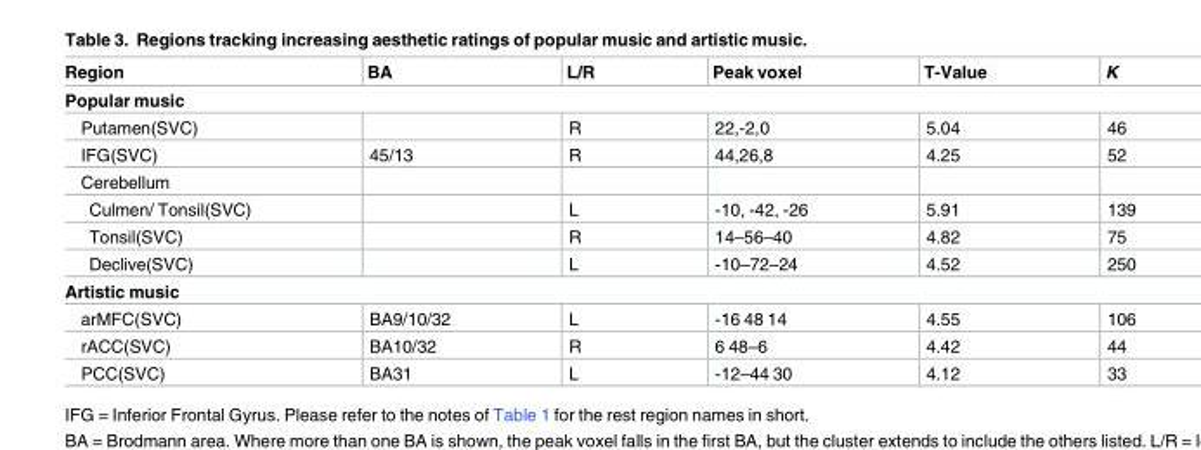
<table><thead><tr><td>Region</td><td>BA</td><td>L/R</td><td>Peak voxel</td><td>T-Value</td><td>K</td></tr></thead><tbody><tr><td colspan="6">Popular music</td></tr><tr><td>Putamen(SVC)</td><td></td><td>R</td><td>22,-2,0</td><td>5.04</td><td>46</td></tr><tr><td>IFG(SVC)</td><td>45/13</td><td>R</td><td>44,26,8</td><td>4.25</td><td>52</td></tr><tr><td colspan="6">Cerebellum</td></tr><tr><td>Culmen/ Tonsil(SVC)</td><td></td><td>L</td><td>-10, -42, -26</td><td>5.91</td><td>139</td></tr><tr><td>Tonsil(SVC)</td><td></td><td>R</td><td>14–56–40</td><td>4.82</td><td>75</td></tr><tr><td>Declive(SVC)</td><td></td><td>L</td><td>-10–72–24</td><td>4.52</td><td>250</td></tr><tr><td colspan="6">Artistic music</td></tr><tr><td>arMFC(SVC)</td><td>BA9/10/32</td><td>L</td><td>-16 48 14</td><td>4.55</td><td>106</td></tr><tr><td>rACC(SVC)</td><td>BA10/32</td><td>R</td><td>6 48–6</td><td>4.42</td><td>44</td></tr><tr><td>PCC(SVC)</td><td>BA31</td><td>L</td><td>-12–44 30</td><td>4.12</td><td>33</td></tr></tbody></table>